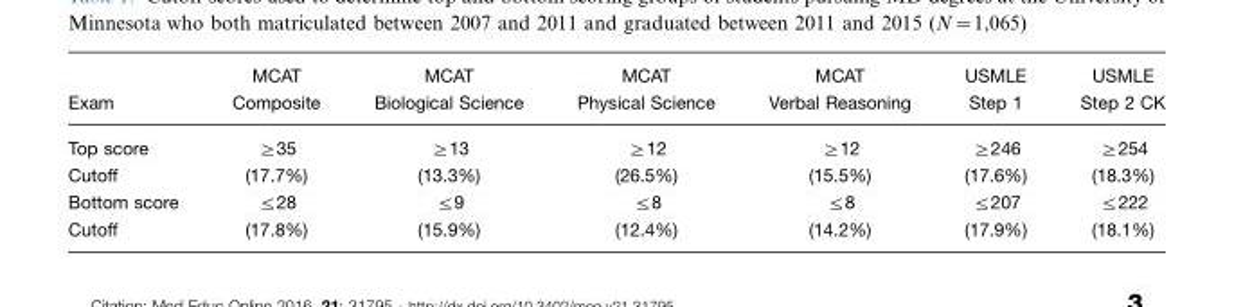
<table><thead><tr><td>Exam</td><td>MCAT Composite</td><td>MCAT Biological Science</td><td>MCAT Physical Science</td><td>MCAT Verbal Reasoning</td><td>USMLE Step 1</td><td>USMLE Step 2 CK</td></tr></thead><tbody><tr><td>Top score Cutoff</td><td>≥35 (17.7%)</td><td>≥13 (13.3%)</td><td>≥12 (26.5%)</td><td>≥12 (15.5%)</td><td>≥246 (17.6%)</td><td>≥254 (18.3%)</td></tr><tr><td>Bottom score Cutoff</td><td>≤28 (17.8%)</td><td>≤9 (15.9%)</td><td>≤8 (12.4%)</td><td>≤8 (14.2%)</td><td>≤207 (17.9%)</td><td>≤222 (18.1%)</td></tr></tbody></table>